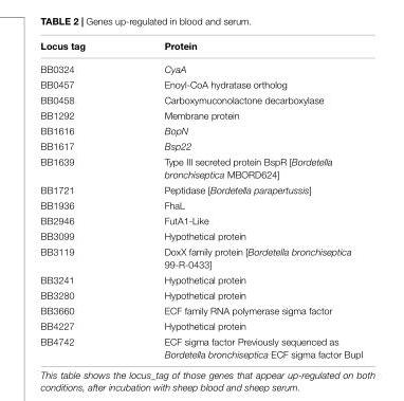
<table><thead><tr><td>Locus tag</td><td>Protein</td></tr></thead><tbody><tr><td>BB0324</td><td>CyaA</td></tr><tr><td>BB0457</td><td>Enoyl-CoA hydratase ortholog</td></tr><tr><td>BB0458</td><td>Carboxymuconolactone decarboxylase</td></tr><tr><td>BB1292</td><td>Membrane protein</td></tr><tr><td>BB1616</td><td>BopN</td></tr><tr><td>BB1617</td><td>Bsp22</td></tr><tr><td>BB1639</td><td>Type III secreted protein BspR [Bordetella bronchiseptica MBORD624]</td></tr><tr><td>BB1721</td><td>Peptidase [Bordetella parapertussis]</td></tr><tr><td>BB1936</td><td>FhaL</td></tr><tr><td>BB2946</td><td>FutA1-Like</td></tr><tr><td>BB3099</td><td>Hypothetical protein</td></tr><tr><td>BB3119</td><td>DoxX family protein [Bordetella bronchiseptica 99-R-0433]</td></tr><tr><td>BB3241</td><td>Hypothetical protein</td></tr><tr><td>BB3280</td><td>Hypothetical protein</td></tr><tr><td>BB3660</td><td>ECF family RNA polymerase sigma factor</td></tr><tr><td>BB4227</td><td>Hypothetical protein</td></tr><tr><td>BB4742</td><td>ECF sigma factor Previously sequenced as Bordetella bronchiseptica ECF sigma factor BupI</td></tr></tbody></table>